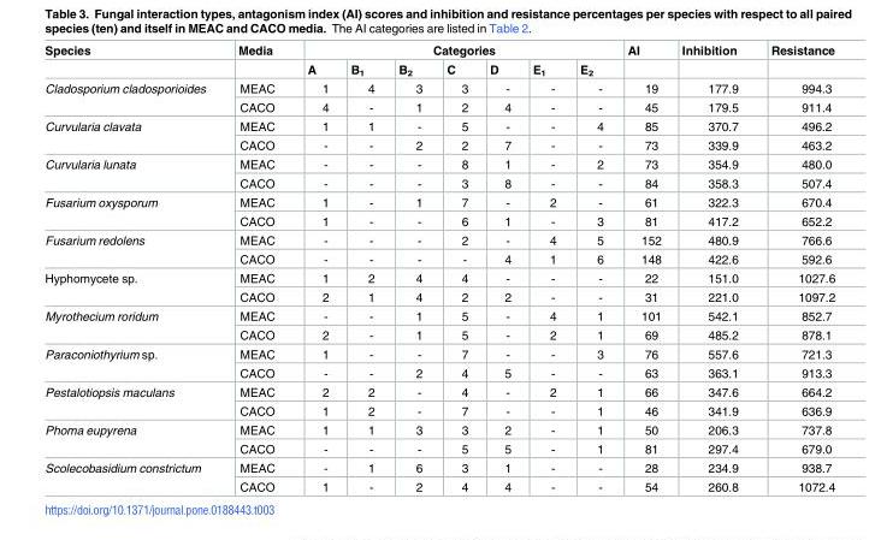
<table><thead><tr><td rowspan="2">Species</td><td rowspan="2">Media</td><td colspan="7">Categories</td><td rowspan="2">AI</td><td rowspan="2">Inhibition</td><td rowspan="2">Resistance</td></tr><tr><td>A</td><td>B<sub>1</sub></td><td>B<sub>2</sub></td><td>C</td><td>D</td><td>E<sub>1</sub></td><td>E<sub>2</sub></td></tr></thead><tbody><tr><td rowspan="2">Cladosporium cladosporioides</td><td>MEAC</td><td>1</td><td>4</td><td>3</td><td>3</td><td>-</td><td>-</td><td>-</td><td>19</td><td>177.9</td><td>994.3</td></tr><tr><td>CACO</td><td>4</td><td>-</td><td>1</td><td>2</td><td>4</td><td>-</td><td>-</td><td>45</td><td>179.5</td><td>911.4</td></tr><tr><td rowspan="2">Curvularia clavata</td><td>MEAC</td><td>1</td><td>1</td><td>-</td><td>5</td><td>-</td><td>-</td><td>4</td><td>85</td><td>370.7</td><td>496.2</td></tr><tr><td>CACO</td><td>-</td><td>-</td><td>2</td><td>2</td><td>7</td><td>-</td><td>-</td><td>73</td><td>339.9</td><td>463.2</td></tr><tr><td rowspan="2">Curvularia lunata</td><td>MEAC</td><td>-</td><td>-</td><td>-</td><td>8</td><td>1</td><td>-</td><td>2</td><td>73</td><td>354.9</td><td>480.0</td></tr><tr><td>CACO</td><td>-</td><td>-</td><td>-</td><td>3</td><td>8</td><td>-</td><td>-</td><td>84</td><td>358.3</td><td>507.4</td></tr><tr><td rowspan="2">Fusarium oxysporum</td><td>MEAC</td><td>1</td><td>-</td><td>1</td><td>7</td><td>-</td><td>2</td><td>-</td><td>61</td><td>322.3</td><td>670.4</td></tr><tr><td>CACO</td><td>1</td><td>-</td><td>-</td><td>6</td><td>1</td><td>-</td><td>3</td><td>81</td><td>417.2</td><td>652.2</td></tr><tr><td rowspan="2">Fusarium redolens</td><td>MEAC</td><td>-</td><td>-</td><td>-</td><td>2</td><td>-</td><td>4</td><td>5</td><td>152</td><td>480.9</td><td>766.6</td></tr><tr><td>CACO</td><td>-</td><td>-</td><td>-</td><td>-</td><td>4</td><td>1</td><td>6</td><td>148</td><td>422.6</td><td>592.6</td></tr><tr><td rowspan="2">Hyphomycete sp.</td><td>MEAC</td><td>1</td><td>2</td><td>4</td><td>4</td><td>-</td><td>-</td><td>-</td><td>22</td><td>151.0</td><td>1027.6</td></tr><tr><td>CACO</td><td>2</td><td>1</td><td>4</td><td>2</td><td>2</td><td>-</td><td>-</td><td>31</td><td>221.0</td><td>1097.2</td></tr><tr><td rowspan="2">Myrothecium roridum</td><td>MEAC</td><td>-</td><td>-</td><td>1</td><td>5</td><td>-</td><td>4</td><td>1</td><td>101</td><td>542.1</td><td>852.7</td></tr><tr><td>CACO</td><td>2</td><td>-</td><td>1</td><td>5</td><td>-</td><td>2</td><td>1</td><td>69</td><td>485.2</td><td>878.1</td></tr><tr><td rowspan="2">Paraconiothyrium sp.</td><td>MEAC</td><td>1</td><td>-</td><td>-</td><td>7</td><td>-</td><td>-</td><td>3</td><td>76</td><td>557.6</td><td>721.3</td></tr><tr><td>CACO</td><td>-</td><td>-</td><td>2</td><td>4</td><td>5</td><td>-</td><td>-</td><td>63</td><td>363.1</td><td>913.3</td></tr><tr><td rowspan="2">Pestalotiopsis maculans</td><td>MEAC</td><td>2</td><td>2</td><td>-</td><td>4</td><td>-</td><td>2</td><td>1</td><td>66</td><td>347.6</td><td>664.2</td></tr><tr><td>CACO</td><td>1</td><td>2</td><td>-</td><td>7</td><td>-</td><td>-</td><td>1</td><td>46</td><td>341.9</td><td>636.9</td></tr><tr><td rowspan="2">Phoma eupyrena</td><td>MEAC</td><td>1</td><td>1</td><td>3</td><td>3</td><td>2</td><td>-</td><td>1</td><td>50</td><td>206.3</td><td>737.8</td></tr><tr><td>CACO</td><td>-</td><td>-</td><td>-</td><td>5</td><td>5</td><td>-</td><td>1</td><td>81</td><td>297.4</td><td>679.0</td></tr><tr><td rowspan="2">Scolecobasidium constrictum</td><td>MEAC</td><td>-</td><td>1</td><td>6</td><td>3</td><td>1</td><td>-</td><td>-</td><td>28</td><td>234.9</td><td>938.7</td></tr><tr><td>CACO</td><td>1</td><td>-</td><td>2</td><td>4</td><td>4</td><td>-</td><td>-</td><td>54</td><td>260.8</td><td>1072.4</td></tr></tbody></table>